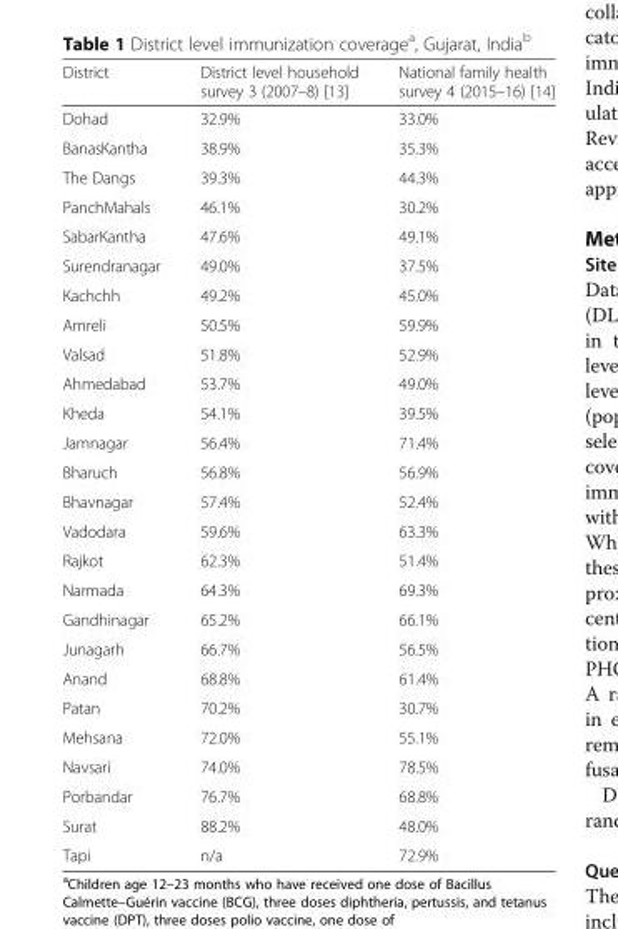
<table><thead><tr><td>District</td><td>District level household survey 3 (2007–8) [13]</td><td>National family health survey 4 (2015–16) [14]</td></tr></thead><tbody><tr><td>Dohad</td><td>32.9%</td><td>33.0%</td></tr><tr><td>BanasKantha</td><td>38.9%</td><td>35.3%</td></tr><tr><td>The Dangs</td><td>39.3%</td><td>44.3%</td></tr><tr><td>PanchMahals</td><td>46.1%</td><td>30.2%</td></tr><tr><td>SabarKantha</td><td>47.6%</td><td>49.1%</td></tr><tr><td>Surendranagar</td><td>49.0%</td><td>37.5%</td></tr><tr><td>Kachchh</td><td>49.2%</td><td>45.0%</td></tr><tr><td>Amreli</td><td>50.5%</td><td>59.9%</td></tr><tr><td>Valsad</td><td>51.8%</td><td>52.9%</td></tr><tr><td>Ahmedabad</td><td>53.7%</td><td>49.0%</td></tr><tr><td>Kheda</td><td>54.1%</td><td>39.5%</td></tr><tr><td>Jamnagar</td><td>56.4%</td><td>71.4%</td></tr><tr><td>Bharuch</td><td>56.8%</td><td>56.9%</td></tr><tr><td>Bhavnagar</td><td>57.4%</td><td>52.4%</td></tr><tr><td>Vadodara</td><td>59.6%</td><td>63.3%</td></tr><tr><td>Rajkot</td><td>62.3%</td><td>51.4%</td></tr><tr><td>Narmada</td><td>64.3%</td><td>69.3%</td></tr><tr><td>Gandhinagar</td><td>65.2%</td><td>66.1%</td></tr><tr><td>Junagarh</td><td>66.7%</td><td>56.5%</td></tr><tr><td>Anand</td><td>68.8%</td><td>61.4%</td></tr><tr><td>Patan</td><td>70.2%</td><td>30.7%</td></tr><tr><td>Mehsana</td><td>72.0%</td><td>55.1%</td></tr><tr><td>Navsari</td><td>74.0%</td><td>78.5%</td></tr><tr><td>Porbandar</td><td>76.7%</td><td>68.8%</td></tr><tr><td>Surat</td><td>88.2%</td><td>48.0%</td></tr><tr><td>Tapi</td><td>n/a</td><td>72.9%</td></tr></tbody></table>